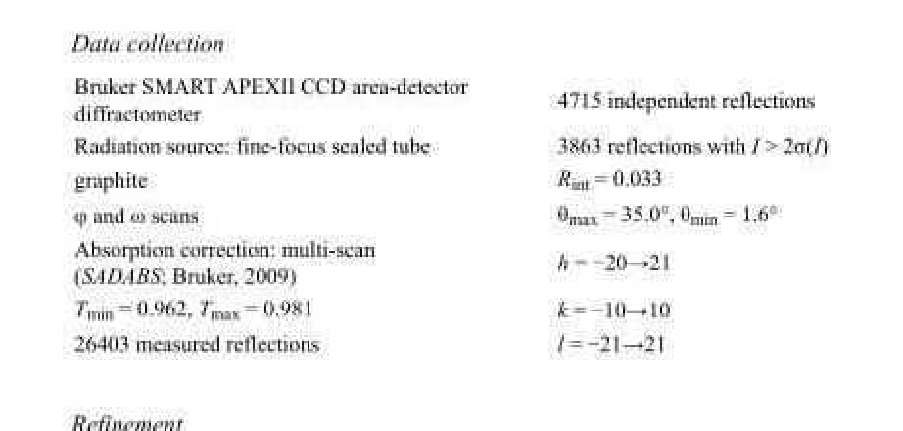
<table><tbody><tr><td>Bruker SMART APEXII CCD area-detector diffractometer</td><td>4715 independent reflections</td></tr><tr><td>Radiation source: fine-focus sealed tube</td><td>3863 reflections with I &gt; 2σ(I)</td></tr><tr><td>graphite</td><td>R<sub>int</sub> = 0.033</td></tr><tr><td>φ and ω scans</td><td>θ<sub>max</sub> = 35.0°, θ<sub>min</sub> = 1.6°</td></tr><tr><td>Absorption correction: multi-scan (SADABS; Bruker, 2009)</td><td>h = −20→21</td></tr><tr><td>T<sub>min</sub> = 0.962, T<sub>max</sub> = 0.981</td><td>k = −10→10</td></tr><tr><td>26403 measured reflections</td><td>l = −21→21</td></tr></tbody></table>